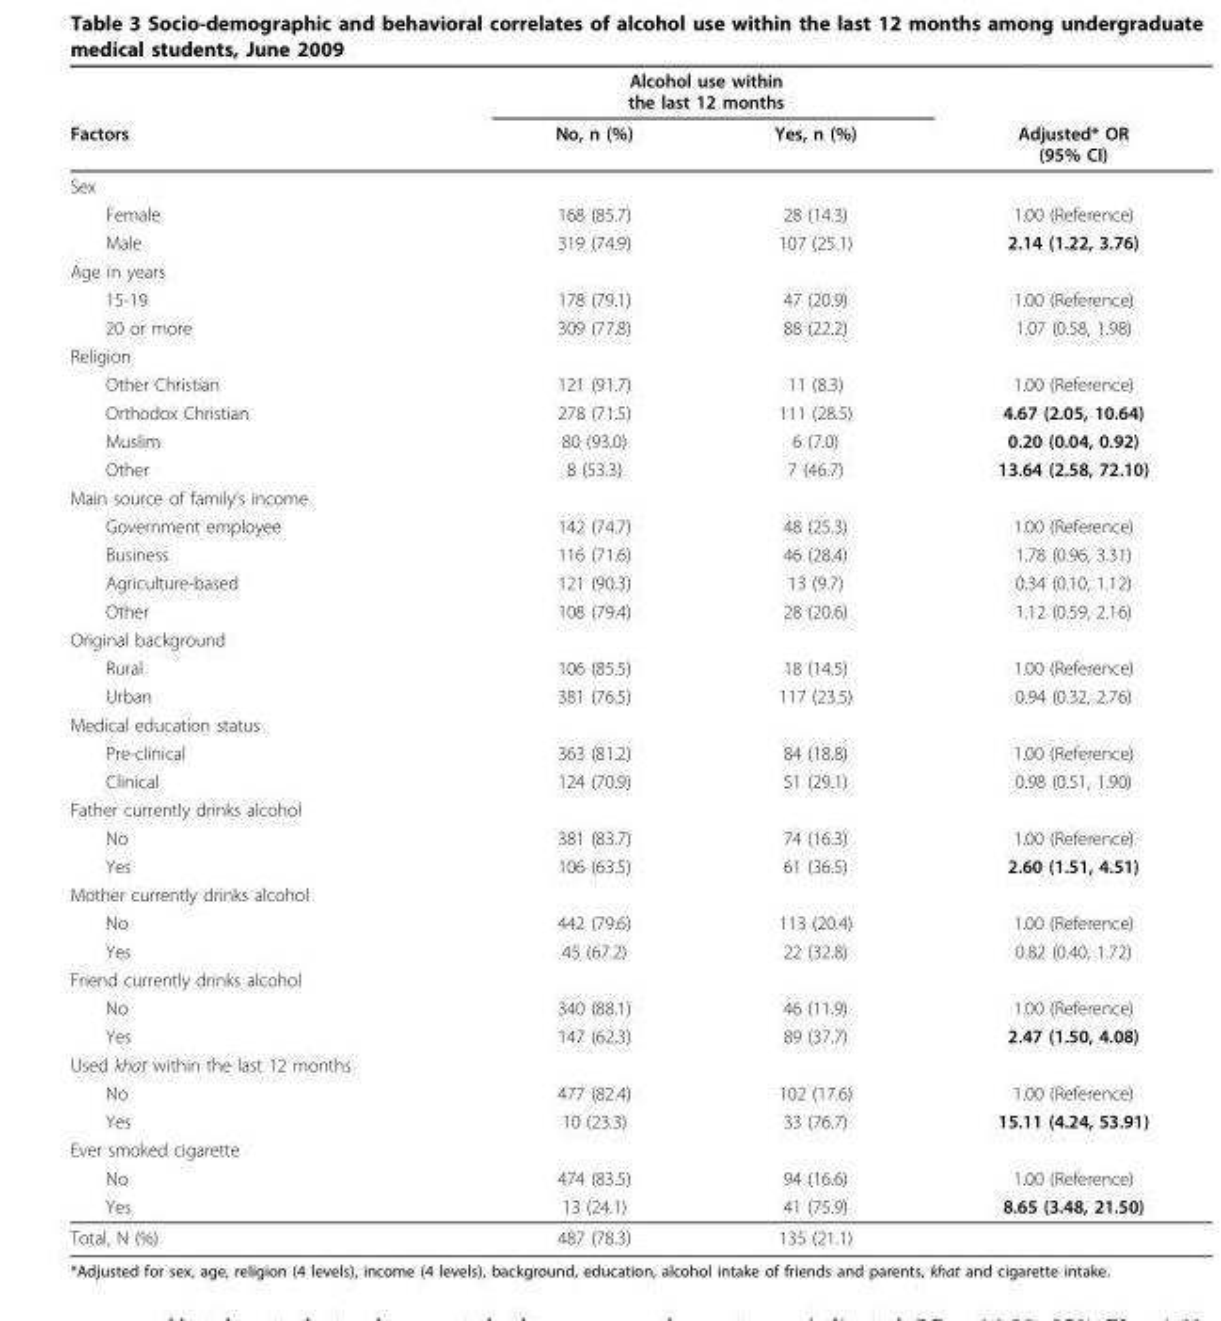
<table><thead><tr><td rowspan="2">Factors</td><td colspan="2">Alcohol use within the last 12 months</td><td rowspan="2">Adjusted* OR (95% CI)</td></tr><tr><td>No, n (%)</td><td>Yes, n (%)</td></tr></thead><tbody><tr><td colspan="4">Sex</td></tr><tr><td>Female</td><td>168 (85.7)</td><td>28 (14.3)</td><td>1.00 (Reference)</td></tr><tr><td>Male</td><td>319 (74.9)</td><td>107 (25.1)</td><td>2.14 (1.22, 3.76)</td></tr><tr><td colspan="4">Age in years</td></tr><tr><td>15-19</td><td>178 (79.1)</td><td>47 (20.9)</td><td>1.00 (Reference)</td></tr><tr><td>20 or more</td><td>309 (77.8)</td><td>88 (22.2)</td><td>1.07 (0.58, 1.98)</td></tr><tr><td colspan="4">Religion</td></tr><tr><td>Other Christian</td><td>121 (91.7)</td><td>11 (8.3)</td><td>1.00 (Reference)</td></tr><tr><td>Orthodox Christian</td><td>278 (71.5)</td><td>111 (28.5)</td><td>4.67 (2.05, 10.64)</td></tr><tr><td>Muslim</td><td>80 (93.0)</td><td>6 (7.0)</td><td>0.20 (0.04, 0.92)</td></tr><tr><td>Other</td><td>8 (53.3)</td><td>7 (46.7)</td><td>13.64 (2.58, 72.10)</td></tr><tr><td colspan="4">Main source of family’s income</td></tr><tr><td>Government employee</td><td>142 (74.7)</td><td>48 (25.3)</td><td>1.00 (Reference)</td></tr><tr><td>Business</td><td>116 (71.6)</td><td>46 (28.4)</td><td>1.78 (0.96, 3.31)</td></tr><tr><td>Agriculture-based</td><td>121 (90.3)</td><td>13 (9.7)</td><td>0.34 (0.10, 1.12)</td></tr><tr><td>Other</td><td>108 (79.4)</td><td>28 (20.6)</td><td>1.12 (0.59, 2.16)</td></tr><tr><td colspan="4">Original background</td></tr><tr><td>Rural</td><td>106 (85.5)</td><td>18 (14.5)</td><td>1.00 (Reference)</td></tr><tr><td>Urban</td><td>381 (76.5)</td><td>117 (23.5)</td><td>0.94 (0.32, 2.76)</td></tr><tr><td colspan="4">Medical education status</td></tr><tr><td>Pre-clinical</td><td>363 (81.2)</td><td>84 (18.8)</td><td>1.00 (Reference)</td></tr><tr><td>Clinical</td><td>124 (70.9)</td><td>51 (29.1)</td><td>0.98 (0.51, 1.90)</td></tr><tr><td colspan="4">Father currently drinks alcohol</td></tr><tr><td>No</td><td>381 (83.7)</td><td>74 (16.3)</td><td>1.00 (Reference)</td></tr><tr><td>Yes</td><td>106 (63.5)</td><td>61 (36.5)</td><td>2.60 (1.51, 4.51)</td></tr><tr><td colspan="4">Mother currently drinks alcohol</td></tr><tr><td>No</td><td>442 (79.6)</td><td>113 (20.4)</td><td>1.00 (Reference)</td></tr><tr><td>Yes</td><td>45 (67.2)</td><td>22 (32.8)</td><td>0.82 (0.40, 1.72)</td></tr><tr><td colspan="4">Friend currently drinks alcohol</td></tr><tr><td>No</td><td>340 (88.1)</td><td>46 (11.9)</td><td>1.00 (Reference)</td></tr><tr><td>Yes</td><td>147 (62.3)</td><td>89 (37.7)</td><td>2.47 (1.50, 4.08)</td></tr><tr><td colspan="4">Used khat within the last 12 months</td></tr><tr><td>No</td><td>477 (82.4)</td><td>102 (17.6)</td><td>1.00 (Reference)</td></tr><tr><td>Yes</td><td>10 (23.3)</td><td>33 (76.7)</td><td>15.11 (4.24, 53.91)</td></tr><tr><td colspan="4">Ever smoked cigarette</td></tr><tr><td>No</td><td>474 (83.5)</td><td>94 (16.6)</td><td>1.00 (Reference)</td></tr><tr><td>Yes</td><td>13 (24.1)</td><td>41 (75.9)</td><td>8.65 (3.48, 21.50)</td></tr><tr><td>Total, N (%)</td><td>487 (78.3)</td><td>135 (21.1)</td><td></td></tr></tbody></table>